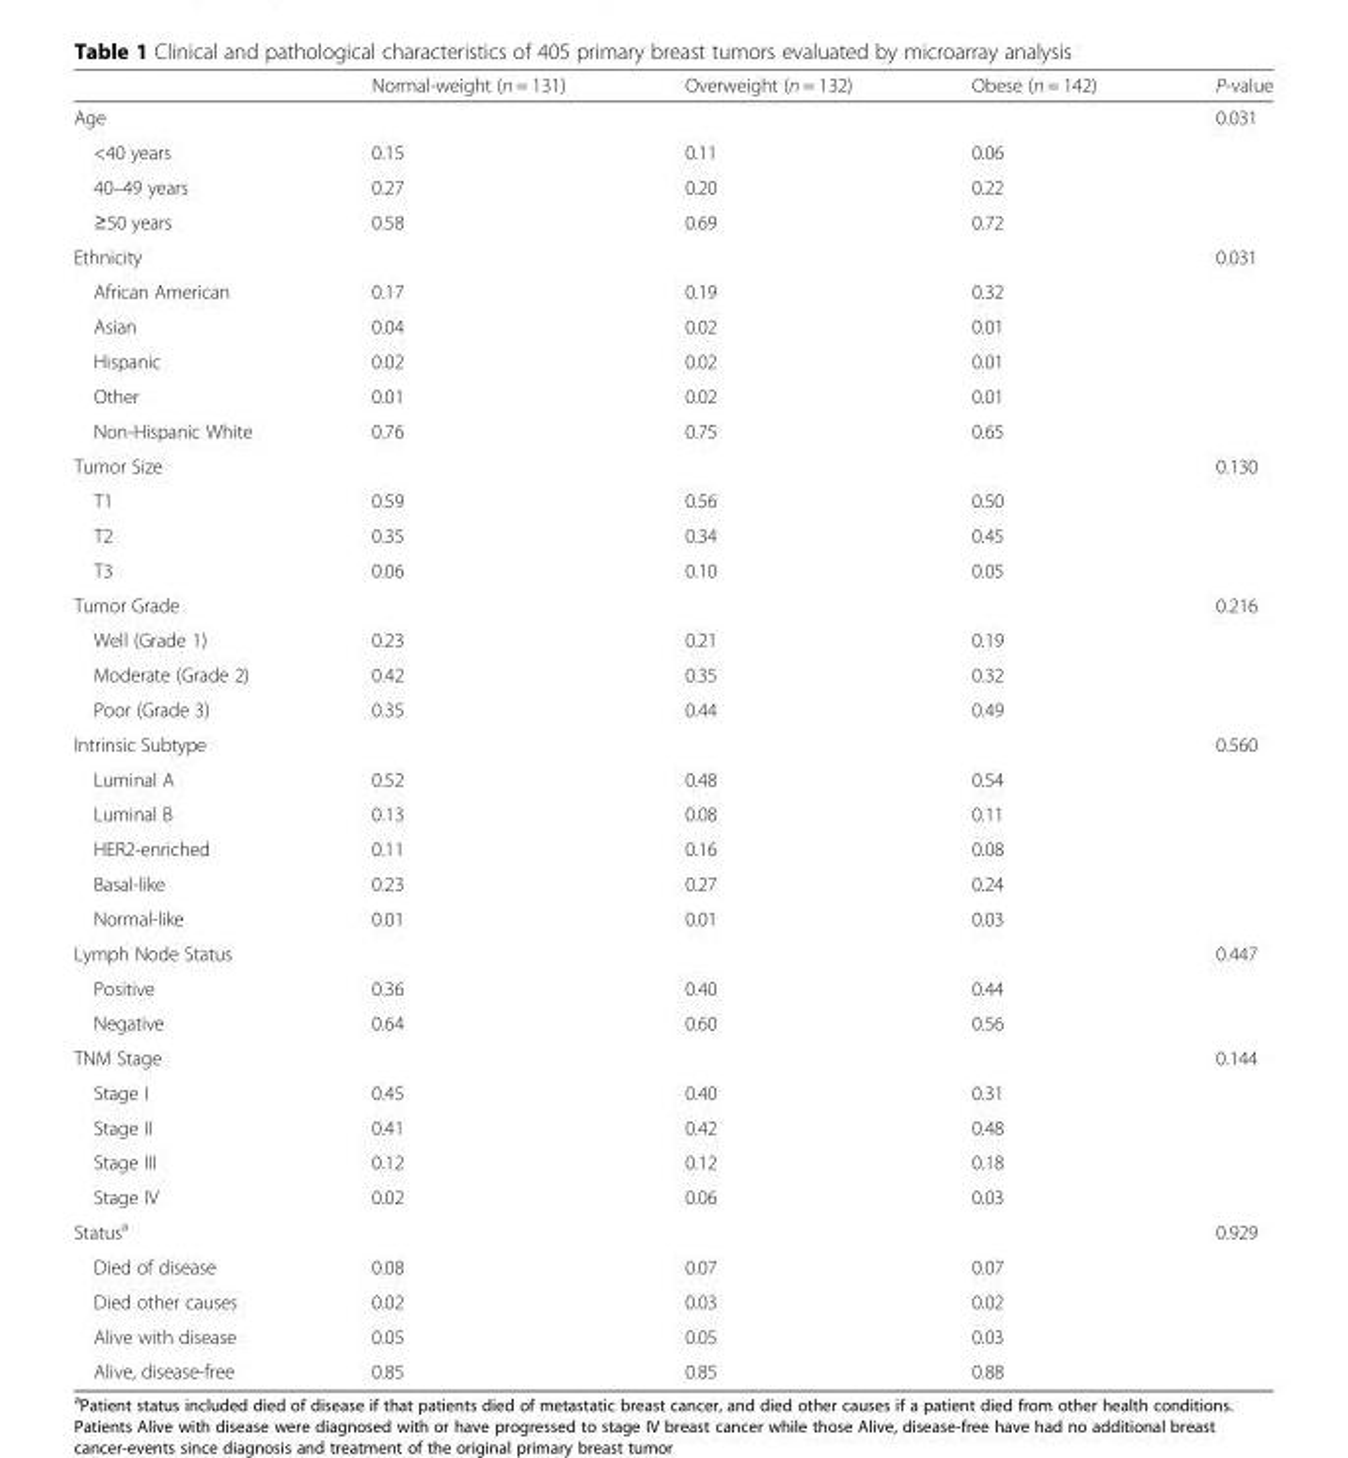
<table><thead><tr><td></td><td>Normal-weight (n = 131)</td><td>Overweight (n = 132)</td><td>Obese (n = 142)</td><td>P-value</td></tr></thead><tbody><tr><td>Age</td><td></td><td></td><td></td><td>0.031</td></tr><tr><td>&lt;40 years</td><td>0.15</td><td>0.11</td><td>0.06</td><td></td></tr><tr><td>40–49 years</td><td>0.27</td><td>0.20</td><td>0.22</td><td></td></tr><tr><td>≥50 years</td><td>0.58</td><td>0.69</td><td>0.72</td><td></td></tr><tr><td>Ethnicity</td><td></td><td></td><td></td><td>0.031</td></tr><tr><td>African American</td><td>0.17</td><td>0.19</td><td>0.32</td><td></td></tr><tr><td>Asian</td><td>0.04</td><td>0.02</td><td>0.01</td><td></td></tr><tr><td>Hispanic</td><td>0.02</td><td>0.02</td><td>0.01</td><td></td></tr><tr><td>Other</td><td>0.01</td><td>0.02</td><td>0.01</td><td></td></tr><tr><td>Non-Hispanic White</td><td>0.76</td><td>0.75</td><td>0.65</td><td></td></tr><tr><td>Tumor Size</td><td></td><td></td><td></td><td>0.130</td></tr><tr><td>T1</td><td>0.59</td><td>0.56</td><td>0.50</td><td></td></tr><tr><td>T2</td><td>0.35</td><td>0.34</td><td>0.45</td><td></td></tr><tr><td>T3</td><td>0.06</td><td>0.10</td><td>0.05</td><td></td></tr><tr><td>Tumor Grade</td><td></td><td></td><td></td><td>0.216</td></tr><tr><td>Well (Grade 1)</td><td>0.23</td><td>0.21</td><td>0.19</td><td></td></tr><tr><td>Moderate (Grade 2)</td><td>0.42</td><td>0.35</td><td>0.32</td><td></td></tr><tr><td>Poor (Grade 3)</td><td>0.35</td><td>0.44</td><td>0.49</td><td></td></tr><tr><td>Intrinsic Subtype</td><td></td><td></td><td></td><td>0.560</td></tr><tr><td>Luminal A</td><td>0.52</td><td>0.48</td><td>0.54</td><td></td></tr><tr><td>Luminal B</td><td>0.13</td><td>0.08</td><td>0.11</td><td></td></tr><tr><td>HER2-enriched</td><td>0.11</td><td>0.16</td><td>0.08</td><td></td></tr><tr><td>Basal-like</td><td>0.23</td><td>0.27</td><td>0.24</td><td></td></tr><tr><td>Normal-like</td><td>0.01</td><td>0.01</td><td>0.03</td><td></td></tr><tr><td>Lymph Node Status</td><td></td><td></td><td></td><td>0.447</td></tr><tr><td>Positive</td><td>0.36</td><td>0.40</td><td>0.44</td><td></td></tr><tr><td>Negative</td><td>0.64</td><td>0.60</td><td>0.56</td><td></td></tr><tr><td>TNM Stage</td><td></td><td></td><td></td><td>0.144</td></tr><tr><td>Stage I</td><td>0.45</td><td>0.40</td><td>0.31</td><td></td></tr><tr><td>Stage II</td><td>0.41</td><td>0.42</td><td>0.48</td><td></td></tr><tr><td>Stage III</td><td>0.12</td><td>0.12</td><td>0.18</td><td></td></tr><tr><td>Stage IV</td><td>0.02</td><td>0.06</td><td>0.03</td><td></td></tr><tr><td>Status<sup>a</sup></td><td></td><td></td><td></td><td>0.929</td></tr><tr><td>Died of disease</td><td>0.08</td><td>0.07</td><td>0.07</td><td></td></tr><tr><td>Died other causes</td><td>0.02</td><td>0.03</td><td>0.02</td><td></td></tr><tr><td>Alive with disease</td><td>0.05</td><td>0.05</td><td>0.03</td><td></td></tr><tr><td>Alive, disease-free</td><td>0.85</td><td>0.85</td><td>0.88</td><td></td></tr></tbody></table>